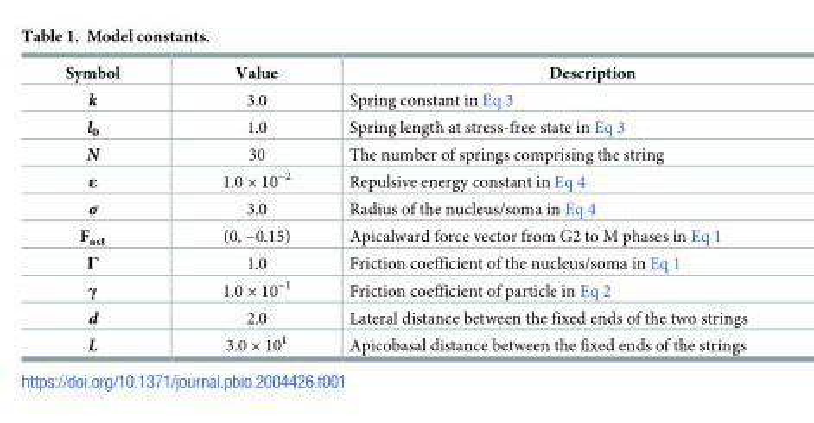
<table><thead><tr><td>Symbol</td><td>Value</td><td>Description</td></tr></thead><tbody><tr><td>k</td><td>3.0</td><td>Spring constant in Eq 3</td></tr><tr><td>l<sub>0</sub></td><td>1.0</td><td>Spring length at stress-free state in Eq 3</td></tr><tr><td>N</td><td>30</td><td>The number of springs comprising the string</td></tr><tr><td>ε</td><td>1.0 × 10<sup>−2</sup></td><td>Repulsive energy constant in Eq 4</td></tr><tr><td>σ</td><td>3.0</td><td>Radius of the nucleus/soma in Eq 4</td></tr><tr><td>F<sub>act</sub></td><td>(0, −0.15)</td><td>Apicalward force vector from G2 to M phases in Eq 1</td></tr><tr><td>Γ</td><td>1.0</td><td>Friction coefficient of the nucleus/soma in Eq 1</td></tr><tr><td>γ</td><td>1.0 × 10<sup>−1</sup></td><td>Friction coefficient of particle in Eq 2</td></tr><tr><td>d</td><td>2.0</td><td>Lateral distance between the fixed ends of the two strings</td></tr><tr><td>L</td><td>3.0 × 10<sup>1</sup></td><td>Apicobasal distance between the fixed ends of the strings</td></tr></tbody></table>